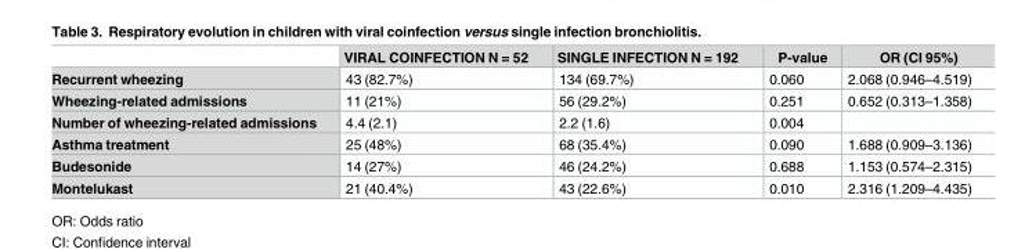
<table><thead><tr><td></td><td>VIRAL COINFECTION N = 52</td><td>SINGLE INFECTION N = 192</td><td>P-value</td><td>OR (CI 95%)</td></tr></thead><tbody><tr><td>Recurrent wheezing</td><td>43 (82.7%)</td><td>134 (69.7%)</td><td>0.060</td><td>2.068 (0.946–4.519)</td></tr><tr><td>Wheezing-related admissions</td><td>11 (21%)</td><td>56 (29.2%)</td><td>0.251</td><td>0.652 (0.313–1.358)</td></tr><tr><td>Number of wheezing-related admissions</td><td>4.4 (2.1)</td><td>2.2 (1.6)</td><td>0.004</td><td></td></tr><tr><td>Asthma treatment</td><td>25 (48%)</td><td>68 (35.4%)</td><td>0.090</td><td>1.688 (0.909–3.136)</td></tr><tr><td>Budesonide</td><td>14 (27%)</td><td>46 (24.2%)</td><td>0.688</td><td>1.153 (0.574–2.315)</td></tr><tr><td>Montelukast</td><td>21 (40.4%)</td><td>43 (22.6%)</td><td>0.010</td><td>2.316 (1.209–4.435)</td></tr></tbody></table>